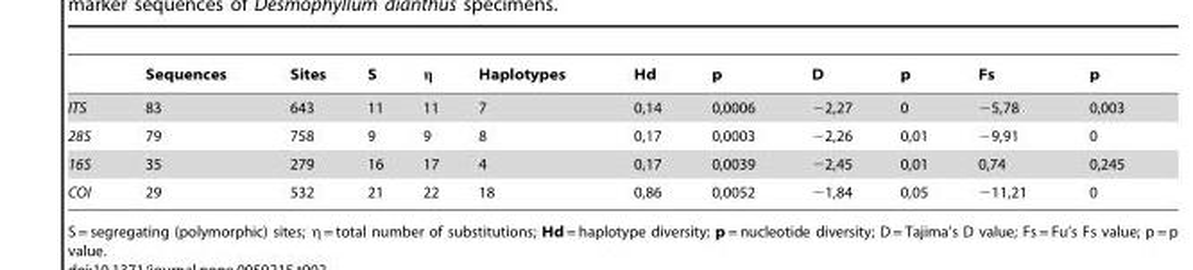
<table><thead><tr><td></td><td>Sequences</td><td>Sites</td><td>S</td><td>η</td><td>Haplotypes</td><td>Hd</td><td>p</td><td>D</td><td>p</td><td>Fs</td><td>p</td></tr></thead><tbody><tr><td>ITS</td><td>83</td><td>643</td><td>11</td><td>11</td><td>7</td><td>0,14</td><td>0,0006</td><td>−2,27</td><td>0</td><td>−5,78</td><td>0,003</td></tr><tr><td>28S</td><td>79</td><td>758</td><td>9</td><td>9</td><td>8</td><td>0,17</td><td>0,0003</td><td>−2,26</td><td>0,01</td><td>−9,91</td><td>0</td></tr><tr><td>16S</td><td>35</td><td>279</td><td>16</td><td>17</td><td>4</td><td>0,17</td><td>0,0039</td><td>−2,45</td><td>0,01</td><td>0,74</td><td>0,245</td></tr><tr><td>COI</td><td>29</td><td>532</td><td>21</td><td>22</td><td>18</td><td>0,86</td><td>0,0052</td><td>−1,84</td><td>0,05</td><td>−11,21</td><td>0</td></tr></tbody></table>